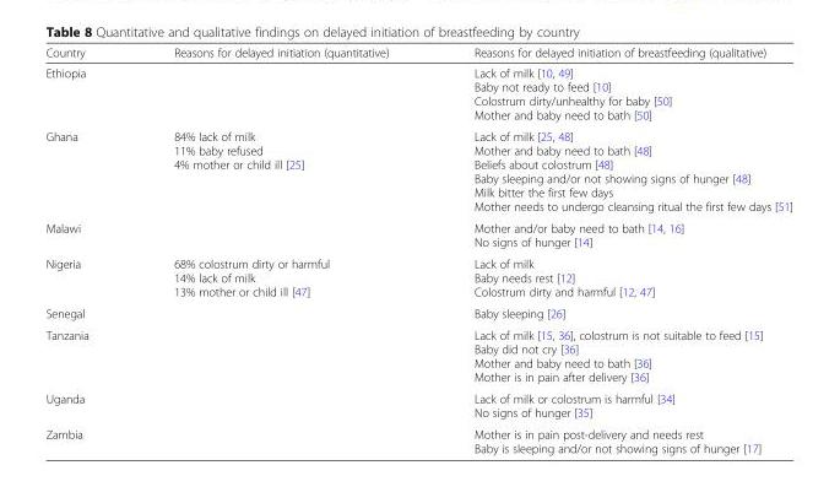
<table><thead><tr><td>Country</td><td>Reasons for delayed initiation (quantitative)</td><td>Reasons for delayed initiation of breastfeeding (qualitative)</td></tr></thead><tbody><tr><td>Ethiopia</td><td></td><td>Lack of milk [10, 49] Baby not ready to feed [10] Colostrum dirty/unhealthy for baby [50] Mother and baby need to bath [50]</td></tr><tr><td>Ghana</td><td>84% lack of milk 11% baby refused 4% mother or child ill [25]</td><td>Lack of milk [25, 48] Mother and baby need to bath [48] Beliefs about colostrum [48] Baby sleeping and/or not showing signs of hunger [48] Milk bitter the first few days Mother needs to undergo cleansing ritual the first few days [51]</td></tr><tr><td>Malawi</td><td></td><td>Mother and/or baby need to bath [14, 16] No signs of hunger [14]</td></tr><tr><td>Nigeria</td><td>68% colostrum dirty or harmful 14% lack of milk 13% mother or child ill [47]</td><td>Lack of milk Baby needs rest [12] Colostrum dirty and harmful [12, 47]</td></tr><tr><td>Senegal</td><td></td><td>Baby sleeping [26]</td></tr><tr><td>Tanzania</td><td></td><td>Lack of milk [15, 36], colostrum is not suitable to feed [15] Baby did not cry [36] Mother and baby need to bath [36] Mother is in pain after delivery [36]</td></tr><tr><td>Uganda</td><td></td><td>Lack of milk or colostrum is harmful [34] No signs of hunger [35]</td></tr><tr><td>Zambia</td><td></td><td>Mother is in pain post-delivery and needs rest Baby is sleeping and/or not showing signs of hunger [17]</td></tr></tbody></table>